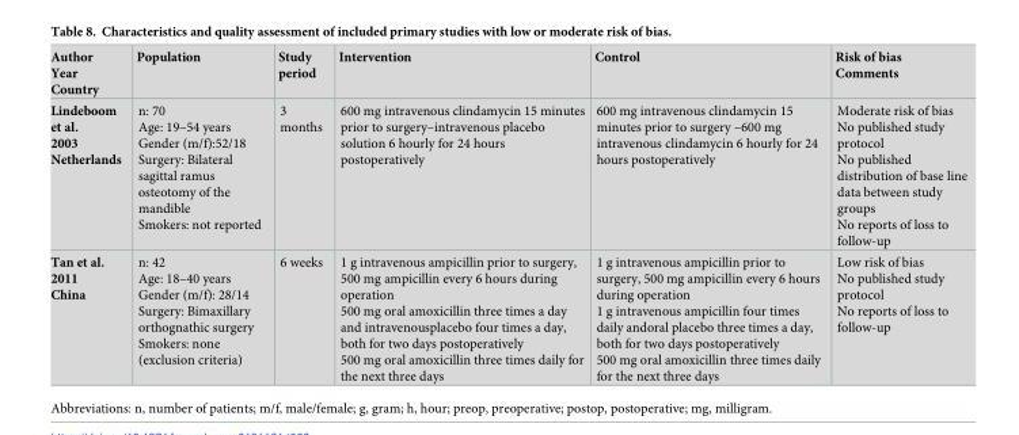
<table><thead><tr><td>Author Year Country</td><td>Population</td><td>Study period</td><td>Intervention</td><td>Control</td><td>Risk of bias Comments</td></tr></thead><tbody><tr><td>Lindeboom et al. 2003 Netherlands</td><td>n: 70 Age: 19–54 years Gender (m/f):52/18 Surgery: Bilateral sagittal ramus osteotomy of the mandible Smokers: not reported</td><td>3 months</td><td>600 mg intravenous clindamycin 15 minutes prior to surgery–intravenous placebo solution 6 hourly for 24 hours postoperatively</td><td>600 mg intravenous clindamycin 15 minutes prior to surgery –600 mg intravenous clindamycin 6 hourly for 24 hours postoperatively</td><td>Moderate risk of bias No published study protocol No published distribution of base line data between study groups No reports of loss to follow-up</td></tr><tr><td>Tan et al. 2011 China</td><td>n: 42 Age: 18–40 years Gender (m/f): 28/14 Surgery: Bimaxillary orthognathic surgery Smokers: none (exclusion criteria)</td><td>6 weeks</td><td>1 g intravenous ampicillin prior to surgery, 500 mg ampicillin every 6 hours during operation 500 mg oral amoxicillin three times a day and intravenousplacebo four times a day, both for two days postoperatively 500 mg oral amoxicillin three times daily for the next three days</td><td>1 g intravenous ampicillin prior to surgery, 500 mg ampicillin every 6 hours during operation 1 g intravenous ampicillin four times daily andoral placebo three times a day, both for two days postoperatively 500 mg oral amoxicillin three times daily for the next three days</td><td>Low risk of bias No published study protocol No reports of loss to follow-up</td></tr></tbody></table>